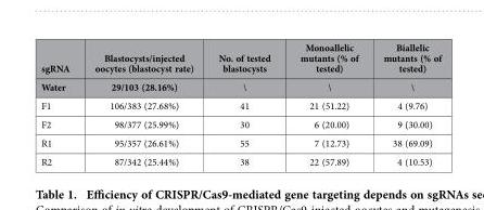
<table><thead><tr><td rowspan="2">sgRNA Water</td><td rowspan="2">Blastocysts/injected oocytes (blastocyst rate) 29/103 (28.16%)</td><td rowspan="2">No. of tested blastocysts \</td><td rowspan="2">Monoallelic mutants (% of tested) \</td><td rowspan="2">Biallelic mutants (% of tested) \</td></tr><tr></tr></thead><tbody><tr><td>F1</td><td>106/383 (27.68%)</td><td>41</td><td>21 (51.22)</td><td>4 (9.76)</td></tr><tr><td>F2</td><td>98/377 (25.99%)</td><td>30</td><td>6 (20.00)</td><td>9 (30.00)</td></tr><tr><td>R1</td><td>95/357 (26.61%)</td><td>55</td><td>7 (12.73)</td><td>38 (69.09)</td></tr><tr><td>R2</td><td>87/342 (25.44%)</td><td>38</td><td>22 (57.89)</td><td>4 (10.53)</td></tr></tbody></table>